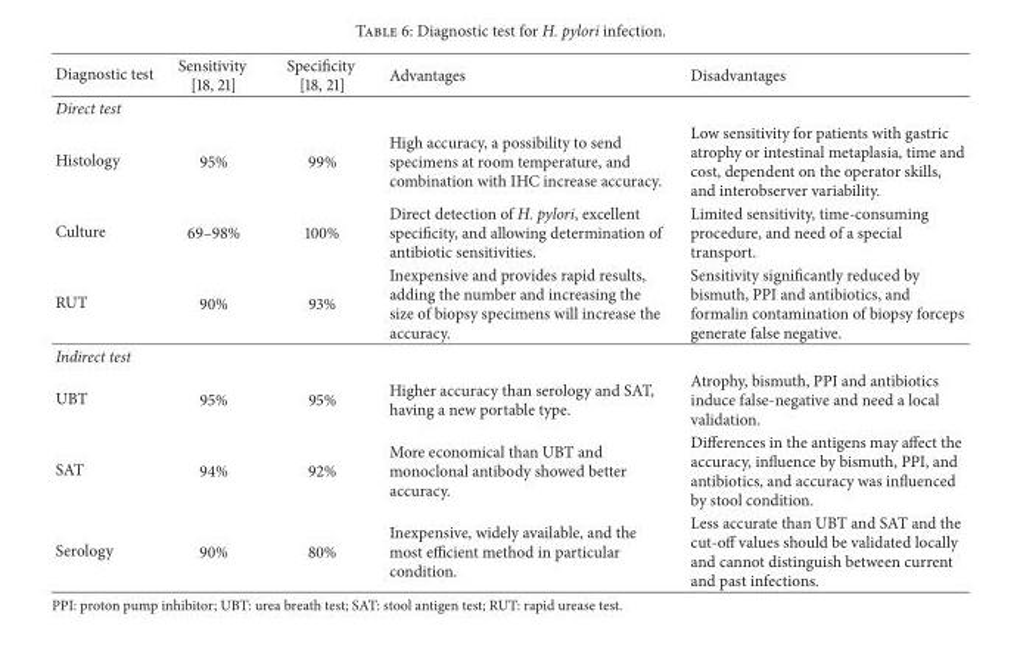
<table><thead><tr><td>Diagnostic test</td><td>Sensitivity [18, 21]</td><td>Specificity [18, 21]</td><td>Advantages</td><td>Disadvantages</td></tr></thead><tbody><tr><td colspan="5">Direct test</td></tr><tr><td>Histology</td><td>95%</td><td>99%</td><td>High accuracy, a possibility to send specimens at room temperature, and combination with IHC increase accuracy.</td><td>Low sensitivity for patients with gastric atrophy or intestinal metaplasia, time and cost, dependent on the operator skills, and interobserver variability.</td></tr><tr><td>Culture</td><td>69–98%</td><td>100%</td><td>Direct detection of H. pylori, excellent specificity, and allowing determination of antibiotic sensitivities.</td><td>Limited sensitivity, time-consuming procedure, and need of a special transport.</td></tr><tr><td>RUT</td><td>90%</td><td>93%</td><td>Inexpensive and provides rapid results, adding the number and increasing the size of biopsy specimens will increase the accuracy.</td><td>Sensitivity significantly reduced by bismuth, PPI and antibiotics, and formalin contamination of biopsy forceps generate false negative.</td></tr><tr><td colspan="5">Indirect test</td></tr><tr><td>UBT</td><td>95%</td><td>95%</td><td>Higher accuracy than serology and SAT, having a new portable type.</td><td>Atrophy, bismuth, PPI and antibiotics induce false-negative and need a local validation.</td></tr><tr><td>SAT</td><td>94%</td><td>92%</td><td>More economical than UBT and monoclonal antibody showed better accuracy.</td><td>Differences in the antigens may affect the accuracy, influence by bismuth, PPI, and antibiotics, and accuracy was influenced by stool condition.</td></tr><tr><td>Serology</td><td>90%</td><td>80%</td><td>Inexpensive, widely available, and the most efficient method in particular condition.</td><td>Less accurate than UBT and SAT and the cut-off values should be validated locally and cannot distinguish between current and past infections.</td></tr></tbody></table>